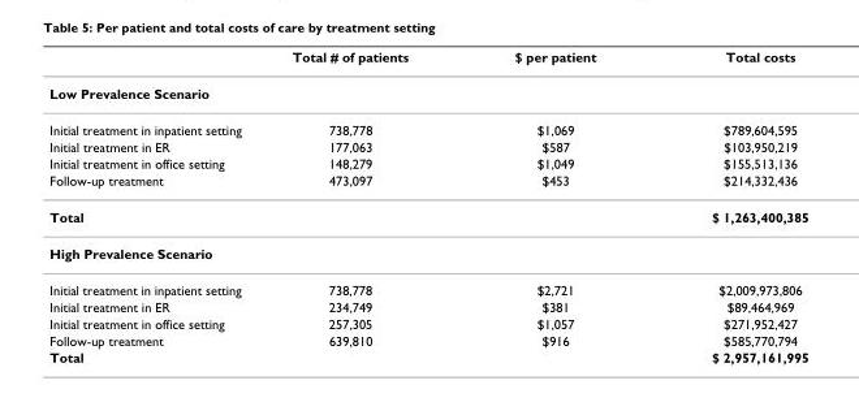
<table><thead><tr><td></td><td>Total # of patients</td><td>$ per patient</td><td>Total costs</td></tr></thead><tbody><tr><td colspan="4">Low Prevalence Scenario</td></tr><tr><td>Initial treatment in inpatient setting</td><td>738,778</td><td>$1,069</td><td>$789,604,595</td></tr><tr><td>Initial treatment in ER</td><td>177,063</td><td>$587</td><td>$103,950,219</td></tr><tr><td>Initial treatment in office setting</td><td>148,279</td><td>$1,049</td><td>$155,513,136</td></tr><tr><td>Follow-up treatment</td><td>473,097</td><td>$453</td><td>$214,332,436</td></tr><tr><td>Total</td><td></td><td></td><td>$ 1,263,400,385</td></tr><tr><td colspan="4">High Prevalence Scenario</td></tr><tr><td>Initial treatment in inpatient setting</td><td>738,778</td><td>$2,721</td><td>$2,009,973,806</td></tr><tr><td>Initial treatment in ER</td><td>234,749</td><td>$381</td><td>$89,464,969</td></tr><tr><td>Initial treatment in office setting</td><td>257,305</td><td>$1,057</td><td>$271,952,427</td></tr><tr><td>Follow-up treatment</td><td>639,810</td><td>$916</td><td>$585,770,794</td></tr><tr><td>Total</td><td></td><td></td><td>$ 2,957,161,995</td></tr></tbody></table>